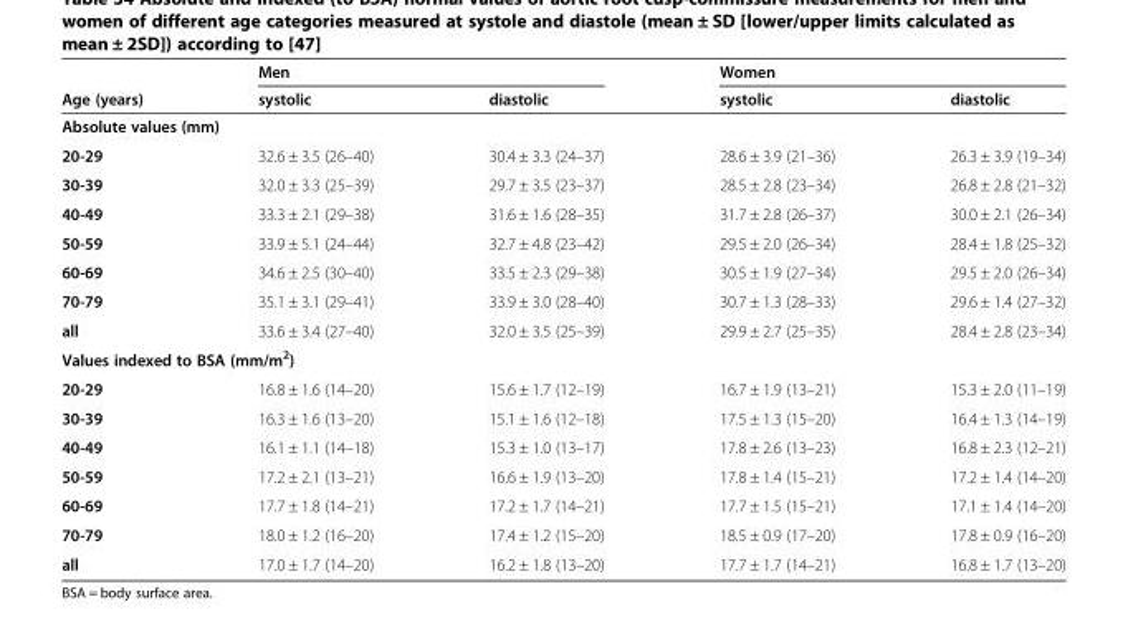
<table><thead><tr><td rowspan="2">Age (years)</td><td colspan="2">Men</td><td colspan="2">Women</td></tr><tr><td>systolic</td><td>diastolic</td><td>systolic</td><td>diastolic</td></tr></thead><tbody><tr><td colspan="5">Absolute values (mm)</td></tr><tr><td>20-29</td><td>32.6 ± 3.5 (26–40)</td><td>30.4 ± 3.3 (24–37)</td><td>28.6 ± 3.9 (21–36)</td><td>26.3 ± 3.9 (19–34)</td></tr><tr><td>30-39</td><td>32.0 ± 3.3 (25–39)</td><td>29.7 ± 3.5 (23–37)</td><td>28.5 ± 2.8 (23–34)</td><td>26.8 ± 2.8 (21–32)</td></tr><tr><td>40-49</td><td>33.3 ± 2.1 (29–38)</td><td>31.6 ± 1.6 (28–35)</td><td>31.7 ± 2.8 (26–37)</td><td>30.0 ± 2.1 (26–34)</td></tr><tr><td>50-59</td><td>33.9 ± 5.1 (24–44)</td><td>32.7 ± 4.8 (23–42)</td><td>29.5 ± 2.0 (26–34)</td><td>28.4 ± 1.8 (25–32)</td></tr><tr><td>60-69</td><td>34.6 ± 2.5 (30–40)</td><td>33.5 ± 2.3 (29–38)</td><td>30.5 ± 1.9 (27–34)</td><td>29.5 ± 2.0 (26–34)</td></tr><tr><td>70-79</td><td>35.1 ± 3.1 (29–41)</td><td>33.9 ± 3.0 (28–40)</td><td>30.7 ± 1.3 (28–33)</td><td>29.6 ± 1.4 (27–32)</td></tr><tr><td>all</td><td>33.6 ± 3.4 (27–40)</td><td>32.0 ± 3.5 (25–39)</td><td>29.9 ± 2.7 (25–35)</td><td>28.4 ± 2.8 (23–34)</td></tr><tr><td colspan="5">Values indexed to BSA (mm/m<sup>2</sup>)</td></tr><tr><td>20-29</td><td>16.8 ± 1.6 (14–20)</td><td>15.6 ± 1.7 (12–19)</td><td>16.7 ± 1.9 (13–21)</td><td>15.3 ± 2.0 (11–19)</td></tr><tr><td>30-39</td><td>16.3 ± 1.6 (13–20)</td><td>15.1 ± 1.6 (12–18)</td><td>17.5 ± 1.3 (15–20)</td><td>16.4 ± 1.3 (14–19)</td></tr><tr><td>40-49</td><td>16.1 ± 1.1 (14–18)</td><td>15.3 ± 1.0 (13–17)</td><td>17.8 ± 2.6 (13–23)</td><td>16.8 ± 2.3 (12–21)</td></tr><tr><td>50-59</td><td>17.2 ± 2.1 (13–21)</td><td>16.6 ± 1.9 (13–20)</td><td>17.8 ± 1.4 (15–21)</td><td>17.2 ± 1.4 (14–20)</td></tr><tr><td>60-69</td><td>17.7 ± 1.8 (14–21)</td><td>17.2 ± 1.7 (14–21)</td><td>17.7 ± 1.5 (15–21)</td><td>17.1 ± 1.4 (14–20)</td></tr><tr><td>70-79</td><td>18.0 ± 1.2 (16–20)</td><td>17.4 ± 1.2 (15–20)</td><td>18.5 ± 0.9 (17–20)</td><td>17.8 ± 0.9 (16–20)</td></tr><tr><td>all</td><td>17.0 ± 1.7 (14–20)</td><td>16.2 ± 1.8 (13–20)</td><td>17.7 ± 1.7 (14–21)</td><td>16.8 ± 1.7 (13–20)</td></tr></tbody></table>